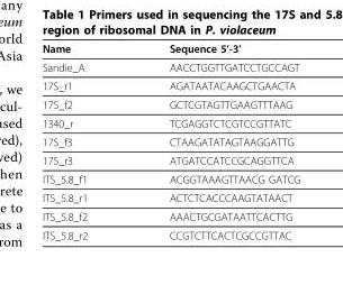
<table><thead><tr><td>Name</td><td>Sequence 5’-3’</td></tr></thead><tbody><tr><td>Sandie_A</td><td>AACCTGGTTGATCCTGCCAGT</td></tr><tr><td>17S_r1</td><td>AGATAATACAAGCTGAACTA</td></tr><tr><td>17S_f2</td><td>GCTCGTAGTTGAAGTTTAAG</td></tr><tr><td>1340_r</td><td>TCGAGGTCTCGTCCGTTATC</td></tr><tr><td>17S_f3</td><td>CTAAGATATAGTAAGGATTG</td></tr><tr><td>17S_r3</td><td>ATGATCCATCCGCAGGTTCA</td></tr><tr><td>ITS_5.8_f1</td><td>ACGGTAAAGTTAACG GATCG</td></tr><tr><td>ITS_5.8_r1</td><td>ACTCTCACCCAAGTATAACT</td></tr><tr><td>ITS_5.8_f2</td><td>AAACTGCGATAATTCACTTG</td></tr><tr><td>ITS_5.8_r2</td><td>CCGTCTTCACTCGCCGTTAC</td></tr></tbody></table>